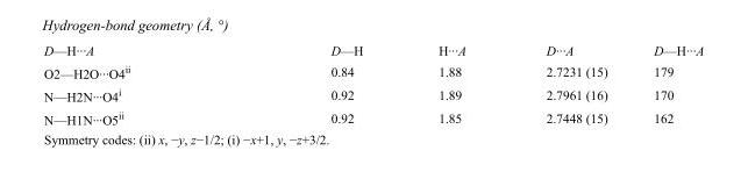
<table><tbody><tr><td>D—H···A</td><td>D—H</td><td>H···A</td><td>D···A</td><td>D—H···A</td></tr><tr><td>O2—H2O···O4<sup>ii</sup></td><td>0.84</td><td>1.88</td><td>2.7231 (15)</td><td>179</td></tr><tr><td>N—H2N···O4<sup>i</sup></td><td>0.92</td><td>1.89</td><td>2.7961 (16)</td><td>170</td></tr><tr><td>N—H1N···O5<sup>ii</sup></td><td>0.92</td><td>1.85</td><td>2.7448 (15)</td><td>162</td></tr></tbody></table>